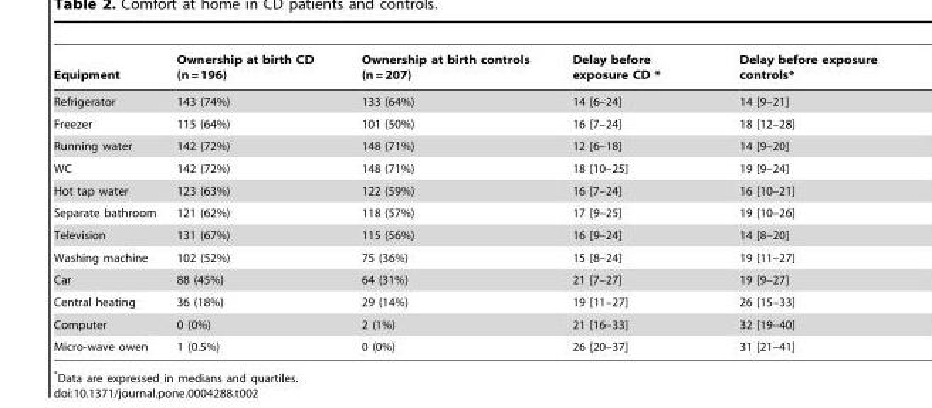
<table><thead><tr><td>Equipment</td><td>Ownership at birth CD (n = 196)</td><td>Ownership at birth controls (n = 207)</td><td>Delay before exposure CD *</td><td>Delay before exposure controls*</td></tr></thead><tbody><tr><td>Refrigerator</td><td>143 (74%)</td><td>133 (64%)</td><td>14 [6–24]</td><td>14 [9–21]</td></tr><tr><td>Freezer</td><td>115 (64%)</td><td>101 (50%)</td><td>16 [7–24]</td><td>18 [12–28]</td></tr><tr><td>Running water</td><td>142 (72%)</td><td>148 (71%)</td><td>12 [6–18]</td><td>14 [9–20]</td></tr><tr><td>WC</td><td>142 (72%)</td><td>148 (71%)</td><td>18 [10–25]</td><td>19 [9–24]</td></tr><tr><td>Hot tap water</td><td>123 (63%)</td><td>122 (59%)</td><td>16 [7–24]</td><td>16 [10–21]</td></tr><tr><td>Separate bathroom</td><td>121 (62%)</td><td>118 (57%)</td><td>17 [9–25]</td><td>19 [10–26]</td></tr><tr><td>Television</td><td>131 (67%)</td><td>115 (56%)</td><td>16 [9–24]</td><td>14 [8–20]</td></tr><tr><td>Washing machine</td><td>102 (52%)</td><td>75 (36%)</td><td>15 [8–24]</td><td>19 [11–27]</td></tr><tr><td>Car</td><td>88 (45%)</td><td>64 (31%)</td><td>21 [7–27]</td><td>19 [9–27]</td></tr><tr><td>Central heating</td><td>36 (18%)</td><td>29 (14%)</td><td>19 [11–27]</td><td>26 [15–33]</td></tr><tr><td>Computer</td><td>0 (0%)</td><td>2 (1%)</td><td>21 [16–33]</td><td>32 [19–40]</td></tr><tr><td>Micro-wave owen</td><td>1 (0.5%)</td><td>0 (0%)</td><td>26 [20–37]</td><td>31 [21–41]</td></tr></tbody></table>